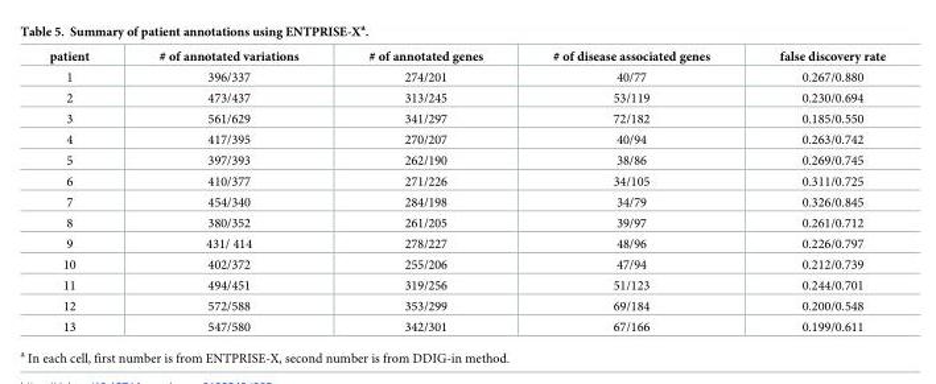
<table><thead><tr><td>patient</td><td># of annotated variations</td><td># of annotated genes</td><td># of disease associated genes</td><td>false discovery rate</td></tr></thead><tbody><tr><td>1</td><td>396/337</td><td>274/201</td><td>40/77</td><td>0.267/0.880</td></tr><tr><td>2</td><td>473/437</td><td>313/245</td><td>53/119</td><td>0.230/0.694</td></tr><tr><td>3</td><td>561/629</td><td>341/297</td><td>72/182</td><td>0.185/0.550</td></tr><tr><td>4</td><td>417/395</td><td>270/207</td><td>40/94</td><td>0.263/0.742</td></tr><tr><td>5</td><td>397/393</td><td>262/190</td><td>38/86</td><td>0.269/0.745</td></tr><tr><td>6</td><td>410/377</td><td>271/226</td><td>34/105</td><td>0.311/0.725</td></tr><tr><td>7</td><td>454/340</td><td>284/198</td><td>34/79</td><td>0.326/0.845</td></tr><tr><td>8</td><td>380/352</td><td>261/205</td><td>39/97</td><td>0.261/0.712</td></tr><tr><td>9</td><td>431/ 414</td><td>278/227</td><td>48/96</td><td>0.226/0.797</td></tr><tr><td>10</td><td>402/372</td><td>255/206</td><td>47/94</td><td>0.212/0.739</td></tr><tr><td>11</td><td>494/451</td><td>319/256</td><td>51/123</td><td>0.244/0.701</td></tr><tr><td>12</td><td>572/588</td><td>353/299</td><td>69/184</td><td>0.200/0.548</td></tr><tr><td>13</td><td>547/580</td><td>342/301</td><td>67/166</td><td>0.199/0.611</td></tr></tbody></table>